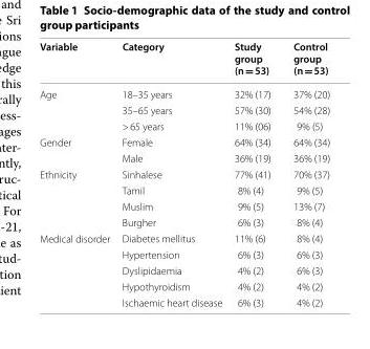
<table><thead><tr><td>Variable</td><td>Category</td><td>Study group (n = 53)</td><td>Control group (n = 53)</td></tr></thead><tbody><tr><td rowspan="3">Age</td><td>18–35 years</td><td>32% (17)</td><td>37% (20)</td></tr><tr><td>35–65 years</td><td>57% (30)</td><td>54% (28)</td></tr><tr><td>&gt; 65 years</td><td>11% (06)</td><td>9% (5)</td></tr><tr><td rowspan="2">Gender</td><td>Female</td><td>64% (34)</td><td>64% (34)</td></tr><tr><td>Male</td><td>36% (19)</td><td>36% (19)</td></tr><tr><td rowspan="4">Ethnicity</td><td>Sinhalese</td><td>77% (41)</td><td>70% (37)</td></tr><tr><td>Tamil</td><td>8% (4)</td><td>9% (5)</td></tr><tr><td>Muslim</td><td>9% (5)</td><td>13% (7)</td></tr><tr><td>Burgher</td><td>6% (3)</td><td>8% (4)</td></tr><tr><td rowspan="5">Medical disorder</td><td>Diabetes mellitus</td><td>11% (6)</td><td>8% (4)</td></tr><tr><td>Hypertension</td><td>6% (3)</td><td>6% (3)</td></tr><tr><td>Dyslipidaemia</td><td>4% (2)</td><td>6% (3)</td></tr><tr><td>Hypothyroidism</td><td>4% (2)</td><td>4% (2)</td></tr><tr><td>Ischaemic heart disease</td><td>6% (3)</td><td>4% (2)</td></tr></tbody></table>